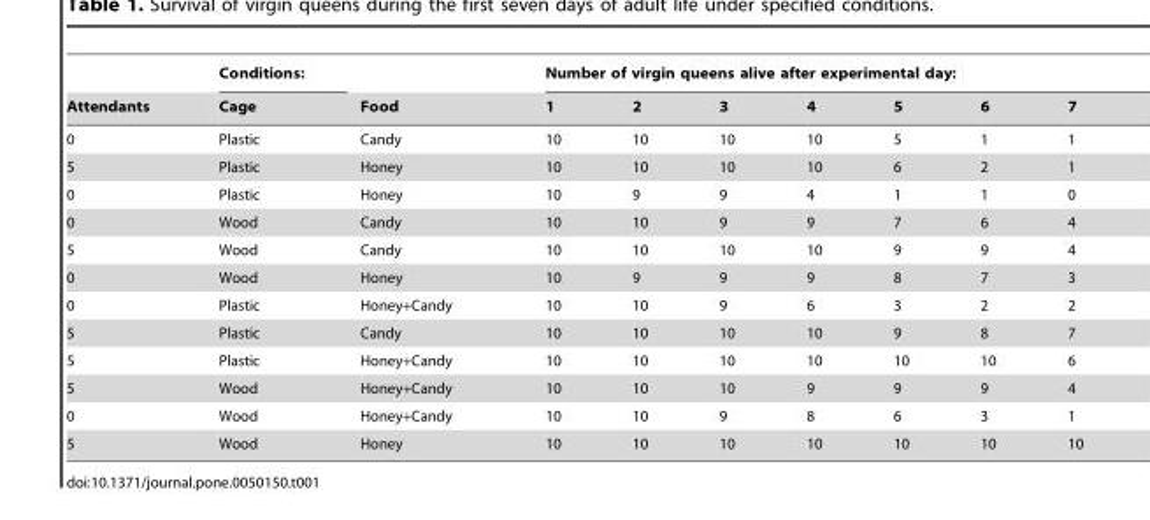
<table><thead><tr><td rowspan="2">Attendants</td><td rowspan="2">Conditions: Cage</td><td rowspan="2">Food</td><td colspan="7">Number of virgin queens alive after experimental day:</td></tr><tr><td>1</td><td>2</td><td>3</td><td>4</td><td>5</td><td>6</td><td>7</td></tr></thead><tbody><tr><td>0</td><td>Plastic</td><td>Candy</td><td>10</td><td>10</td><td>10</td><td>10</td><td>5</td><td>1</td><td>1</td></tr><tr><td>5</td><td>Plastic</td><td>Honey</td><td>10</td><td>10</td><td>10</td><td>10</td><td>6</td><td>2</td><td>1</td></tr><tr><td>0</td><td>Plastic</td><td>Honey</td><td>10</td><td>9</td><td>9</td><td>4</td><td>1</td><td>1</td><td>0</td></tr><tr><td>0</td><td>Wood</td><td>Candy</td><td>10</td><td>10</td><td>9</td><td>9</td><td>7</td><td>6</td><td>4</td></tr><tr><td>5</td><td>Wood</td><td>Candy</td><td>10</td><td>10</td><td>10</td><td>10</td><td>9</td><td>9</td><td>4</td></tr><tr><td>0</td><td>Wood</td><td>Honey</td><td>10</td><td>9</td><td>9</td><td>9</td><td>8</td><td>7</td><td>3</td></tr><tr><td>0</td><td>Plastic</td><td>Honey+Candy</td><td>10</td><td>10</td><td>9</td><td>6</td><td>3</td><td>2</td><td>2</td></tr><tr><td>5</td><td>Plastic</td><td>Candy</td><td>10</td><td>10</td><td>10</td><td>10</td><td>9</td><td>8</td><td>7</td></tr><tr><td>5</td><td>Plastic</td><td>Honey+Candy</td><td>10</td><td>10</td><td>10</td><td>10</td><td>10</td><td>10</td><td>6</td></tr><tr><td>5</td><td>Wood</td><td>Honey+Candy</td><td>10</td><td>10</td><td>10</td><td>9</td><td>9</td><td>9</td><td>4</td></tr><tr><td>0</td><td>Wood</td><td>Honey+Candy</td><td>10</td><td>10</td><td>9</td><td>8</td><td>6</td><td>3</td><td>1</td></tr><tr><td>5</td><td>Wood</td><td>Honey</td><td>10</td><td>10</td><td>10</td><td>10</td><td>10</td><td>10</td><td>10</td></tr></tbody></table>